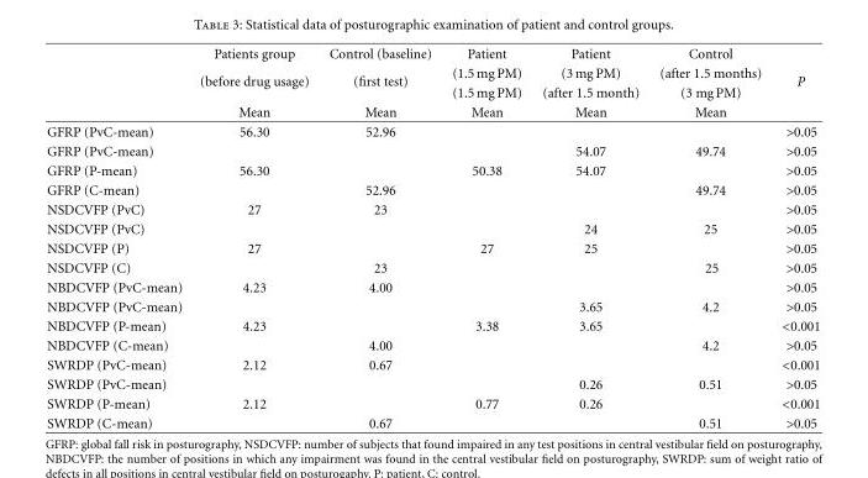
<table><thead><tr><td rowspan="4"></td><td rowspan="4">Patients group (before drug usage) Mean</td><td rowspan="4">Control (baseline) (first test) Mean</td><td rowspan="4">Patient (1.5 mg PM) (1.5 mg PM) Mean</td><td rowspan="4">Patient (3 mg PM) (after 1.5 month) Mean</td><td rowspan="4">Control (after 1.5 months) (3 mg PM) Mean</td><td rowspan="4">P</td></tr><tr></tr><tr></tr><tr></tr></thead><tbody><tr><td>GFRP (PvC-mean)</td><td>56.30</td><td>52.96</td><td></td><td></td><td></td><td>&gt;0.05</td></tr><tr><td>GFRP (PvC-mean)</td><td></td><td></td><td></td><td>54.07</td><td>49.74</td><td>&gt;0.05</td></tr><tr><td>GFRP (P-mean)</td><td>56.30</td><td></td><td>50.38</td><td>54.07</td><td></td><td>&gt;0.05</td></tr><tr><td>GFRP (C-mean)</td><td></td><td>52.96</td><td></td><td></td><td>49.74</td><td>&gt;0.05</td></tr><tr><td>NSDCVFP (PvC)</td><td>27</td><td>23</td><td></td><td></td><td></td><td>&gt;0.05</td></tr><tr><td>NSDCVFP (PvC)</td><td></td><td></td><td></td><td>24</td><td>25</td><td>&gt;0.05</td></tr><tr><td>NSDCVFP (P)</td><td>27</td><td></td><td>27</td><td>25</td><td></td><td>&gt;0.05</td></tr><tr><td>NSDCVFP (C)</td><td></td><td>23</td><td></td><td></td><td>25</td><td>&gt;0.05</td></tr><tr><td>NBDCVFP (PvC-mean)</td><td>4.23</td><td>4.00</td><td></td><td></td><td></td><td>&gt;0.05</td></tr><tr><td>NBDCVFP (PvC-mean)</td><td></td><td></td><td></td><td>3.65</td><td>4.2</td><td>&gt;0.05</td></tr><tr><td>NBDCVFP (P-mean)</td><td>4.23</td><td></td><td>3.38</td><td>3.65</td><td></td><td>&lt;0.001</td></tr><tr><td>NBDCVFP (C-mean)</td><td></td><td>4.00</td><td></td><td></td><td>4.2</td><td>&gt;0.05</td></tr><tr><td>SWRDP (PvC-mean)</td><td>2.12</td><td>0.67</td><td></td><td></td><td></td><td>&lt;0.001</td></tr><tr><td>SWRDP (PvC-mean)</td><td></td><td></td><td></td><td>0.26</td><td>0.51</td><td>&gt;0.05</td></tr><tr><td>SWRDP (P-mean)</td><td>2.12</td><td></td><td>0.77</td><td>0.26</td><td></td><td>&lt;0.001</td></tr><tr><td>SWRDP (C-mean)</td><td></td><td>0.67</td><td></td><td></td><td>0.51</td><td>&gt;0.05</td></tr></tbody></table>